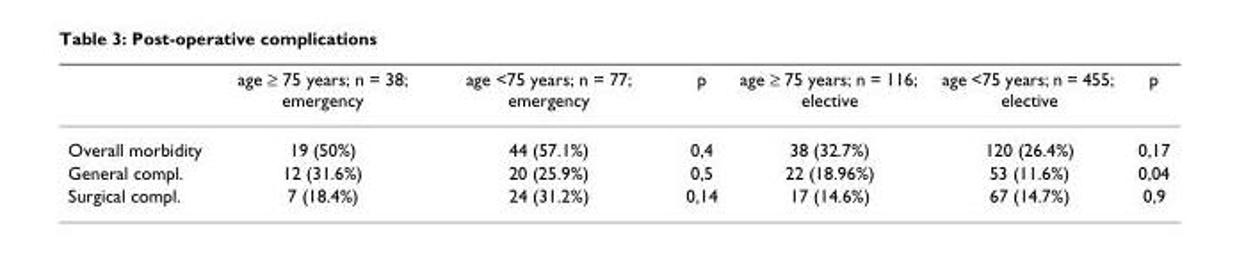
<table><thead><tr><td></td><td>age ≥ 75 years; n = 38; emergency</td><td>age &lt;75 years; n = 77; emergency</td><td>p</td><td>age ≥ 75 years; n = 116; elective</td><td>age &lt;75 years; n = 455; elective</td><td>p</td></tr></thead><tbody><tr><td>Overall morbidity</td><td>19 (50%)</td><td>44 (57.1%)</td><td>0,4</td><td>38 (32.7%)</td><td>120 (26.4%)</td><td>0,17</td></tr><tr><td>General compl.</td><td>12 (31.6%)</td><td>20 (25.9%)</td><td>0,5</td><td>22 (18.96%)</td><td>53 (11.6%)</td><td>0,04</td></tr><tr><td>Surgical compl.</td><td>7 (18.4%)</td><td>24 (31.2%)</td><td>0,14</td><td>17 (14.6%)</td><td>67 (14.7%)</td><td>0,9</td></tr></tbody></table>